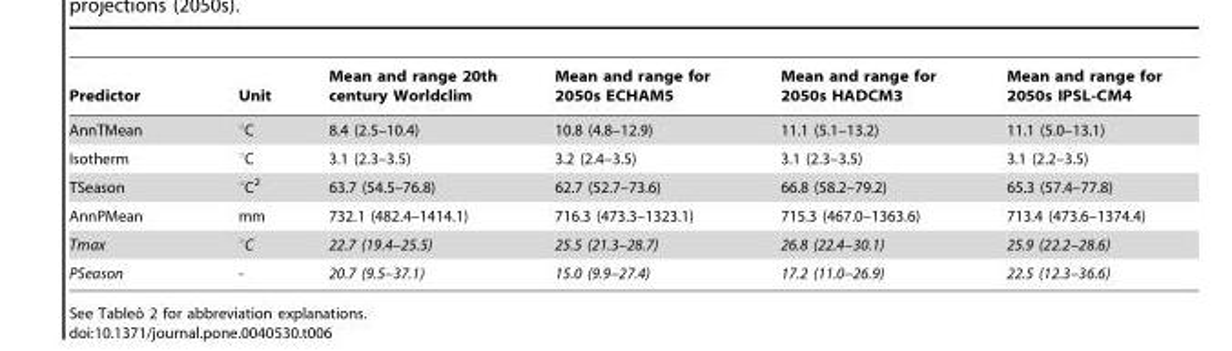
<table><thead><tr><td>Predictor</td><td>Unit</td><td>Mean and range 20th century Worldclim</td><td>Mean and range for 2050s ECHAM5</td><td>Mean and range for 2050s HADCM3</td><td>Mean and range for 2050s IPSL-CM4</td></tr></thead><tbody><tr><td>AnnTMean</td><td>°C</td><td>8.4 (2.5–10.4)</td><td>10.8 (4.8–12.9)</td><td>11.1 (5.1–13.2)</td><td>11.1 (5.0–13.1)</td></tr><tr><td>Isotherm</td><td>°C</td><td>3.1 (2.3–3.5)</td><td>3.2 (2.4–3.5)</td><td>3.1 (2.3–3.5)</td><td>3.1 (2.2–3.5)</td></tr><tr><td>TSeason</td><td>°C<sup>2</sup></td><td>63.7 (54.5–76.8)</td><td>62.7 (52.7–73.6)</td><td>66.8 (58.2–79.2)</td><td>65.3 (57.4–77.8)</td></tr><tr><td>AnnPMean</td><td>mm</td><td>732.1 (482.4–1414.1)</td><td>716.3 (473.3–1323.1)</td><td>715.3 (467.0–1363.6)</td><td>713.4 (473.6–1374.4)</td></tr><tr><td>Tmax</td><td>°C</td><td>22.7 (19.4–25.5)</td><td>25.5 (21.3–28.7)</td><td>26.8 (22.4–30.1)</td><td>25.9 (22.2–28.6)</td></tr><tr><td>PSeason</td><td>-</td><td>20.7 (9.5–37.1)</td><td>15.0 (9.9–27.4)</td><td>17.2 (11.0–26.9)</td><td>22.5 (12.3–36.6)</td></tr></tbody></table>